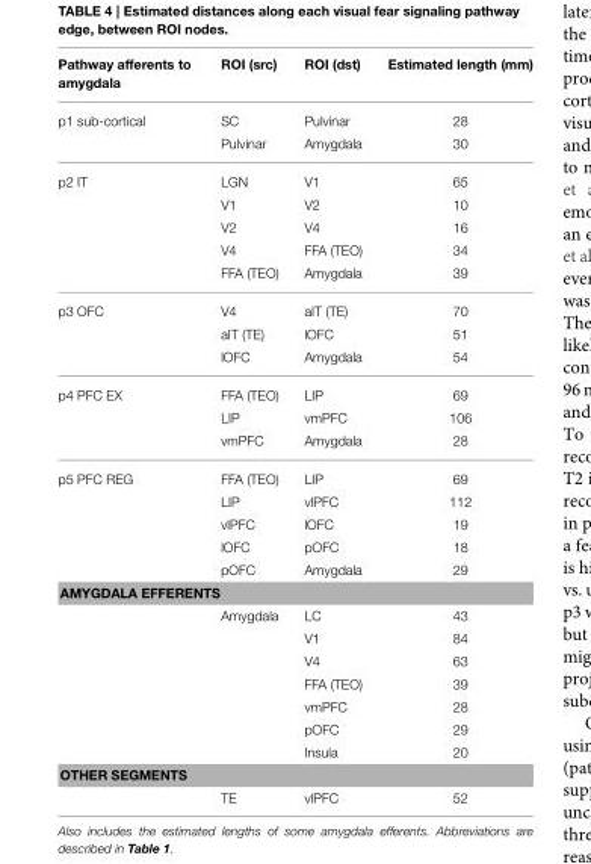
<table><thead><tr><td>Pathway afferents to amygdala</td><td>ROI (src)</td><td>ROI (dst)</td><td>Estimated length (mm)</td></tr></thead><tbody><tr><td rowspan="2">p1 sub-cortical</td><td>SC</td><td>Pulvinar</td><td>28</td></tr><tr><td>Pulvinar</td><td>Amygdala</td><td>30</td></tr><tr><td rowspan="5">p2 IT</td><td>LGN</td><td>V1</td><td>65</td></tr><tr><td>V1</td><td>V2</td><td>10</td></tr><tr><td>V2</td><td>V4</td><td>16</td></tr><tr><td>V4</td><td>FFA (TEO)</td><td>34</td></tr><tr><td>FFA (TEO)</td><td>Amygdala</td><td>39</td></tr><tr><td rowspan="3">p3 OFC</td><td>V4</td><td>aIT (TE)</td><td>70</td></tr><tr><td>aIT (TE)</td><td>lOFC</td><td>51</td></tr><tr><td>lOFC</td><td>Amygdala</td><td>54</td></tr><tr><td rowspan="3">p4 PFC EX</td><td>FFA (TEO)</td><td>LIP</td><td>69</td></tr><tr><td>LIP</td><td>vmPFC</td><td>106</td></tr><tr><td>vmPFC</td><td>Amygdala</td><td>28</td></tr><tr><td rowspan="5">p5 PFC REG</td><td>FFA (TEO)</td><td>LIP</td><td>69</td></tr><tr><td>LIP</td><td>vlPFC</td><td>112</td></tr><tr><td>vlPFC</td><td>lOFC</td><td>19</td></tr><tr><td>lOFC</td><td>pOFC</td><td>18</td></tr><tr><td>pOFC</td><td>Amygdala</td><td>29</td></tr><tr><td colspan="4">AMYGDALA EFFERENTS</td></tr><tr><td></td><td>Amygdala</td><td>LC</td><td>43</td></tr><tr><td></td><td></td><td>V1</td><td>84</td></tr><tr><td></td><td></td><td>V4</td><td>63</td></tr><tr><td></td><td></td><td>FFA (TEO)</td><td>39</td></tr><tr><td></td><td></td><td>vmPFC</td><td>28</td></tr><tr><td></td><td></td><td>pOFC</td><td>29</td></tr><tr><td></td><td></td><td>Insula</td><td>20</td></tr><tr><td colspan="4">OTHER SEGMENTS</td></tr><tr><td></td><td>TE</td><td>vlPFC</td><td>52</td></tr></tbody></table>